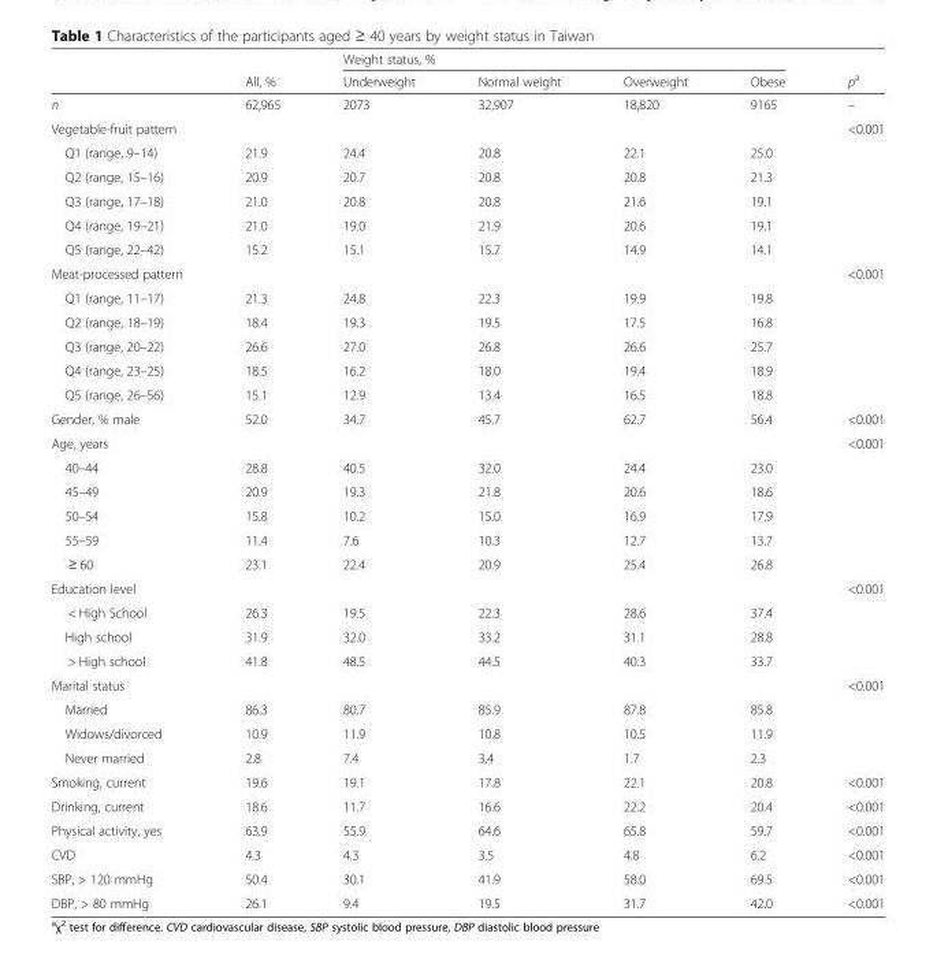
<table><thead><tr><td rowspan="2"></td><td rowspan="2">All, %</td><td colspan="4">Weight status, %</td><td rowspan="2">p<sup>a</sup></td></tr><tr><td>Underweight</td><td>Normal weight</td><td>Overweight</td><td>Obese</td></tr></thead><tbody><tr><td>n</td><td>62,965</td><td>2073</td><td>32,907</td><td>18,820</td><td>9165</td><td>–</td></tr><tr><td>Vegetable-fruit pattern</td><td></td><td></td><td></td><td></td><td></td><td>&lt;0.001</td></tr><tr><td>Q1 (range, 9–14)</td><td>21.9</td><td>24.4</td><td>20.8</td><td>22.1</td><td>25.0</td><td></td></tr><tr><td>Q2 (range, 15–16)</td><td>20.9</td><td>20.7</td><td>20.8</td><td>20.8</td><td>21.3</td><td></td></tr><tr><td>Q3 (range, 17–18)</td><td>21.0</td><td>20.8</td><td>20.8</td><td>21.6</td><td>19.1</td><td></td></tr><tr><td>Q4 (range, 19–21)</td><td>21.0</td><td>19.0</td><td>21.9</td><td>20.6</td><td>19.1</td><td></td></tr><tr><td>Q5 (range, 22–42)</td><td>15.2</td><td>15.1</td><td>15.7</td><td>14.9</td><td>14.1</td><td></td></tr><tr><td>Meat-processed pattern</td><td></td><td></td><td></td><td></td><td></td><td>&lt;0.001</td></tr><tr><td>Q1 (range, 11–17)</td><td>21.3</td><td>24.8</td><td>22.3</td><td>19.9</td><td>19.8</td><td></td></tr><tr><td>Q2 (range, 18–19)</td><td>18.4</td><td>19.3</td><td>19.5</td><td>17.5</td><td>16.8</td><td></td></tr><tr><td>Q3 (range, 20–22)</td><td>26.6</td><td>27.0</td><td>26.8</td><td>26.6</td><td>25.7</td><td></td></tr><tr><td>Q4 (range, 23–25)</td><td>18.5</td><td>16.2</td><td>18.0</td><td>19.4</td><td>18.9</td><td></td></tr><tr><td>Q5 (range, 26–56)</td><td>15.1</td><td>12.9</td><td>13.4</td><td>16.5</td><td>18.8</td><td></td></tr><tr><td>Gender, % male</td><td>52.0</td><td>34.7</td><td>45.7</td><td>62.7</td><td>56.4</td><td>&lt;0.001</td></tr><tr><td>Age, years</td><td></td><td></td><td></td><td></td><td></td><td>&lt;0.001</td></tr><tr><td>40–44</td><td>28.8</td><td>40.5</td><td>32.0</td><td>24.4</td><td>23.0</td><td></td></tr><tr><td>45–49</td><td>20.9</td><td>19.3</td><td>21.8</td><td>20.6</td><td>18.6</td><td></td></tr><tr><td>50–54</td><td>15.8</td><td>10.2</td><td>15.0</td><td>16.9</td><td>17.9</td><td></td></tr><tr><td>55–59</td><td>11.4</td><td>7.6</td><td>10.3</td><td>12.7</td><td>13.7</td><td></td></tr><tr><td>≥ 60</td><td>23.1</td><td>22.4</td><td>20.9</td><td>25.4</td><td>26.8</td><td></td></tr><tr><td>Education level</td><td></td><td></td><td></td><td></td><td></td><td>&lt;0.001</td></tr><tr><td>&lt; High School</td><td>26.3</td><td>19.5</td><td>22.3</td><td>28.6</td><td>37.4</td><td></td></tr><tr><td>High school</td><td>31.9</td><td>32.0</td><td>33.2</td><td>31.1</td><td>28.8</td><td></td></tr><tr><td>&gt; High school</td><td>41.8</td><td>48.5</td><td>44.5</td><td>40.3</td><td>33.7</td><td></td></tr><tr><td>Marital status</td><td></td><td></td><td></td><td></td><td></td><td>&lt;0.001</td></tr><tr><td>Married</td><td>86.3</td><td>80.7</td><td>85.9</td><td>87.8</td><td>85.8</td><td></td></tr><tr><td>Widows/divorced</td><td>10.9</td><td>11.9</td><td>10.8</td><td>10.5</td><td>11.9</td><td></td></tr><tr><td>Never married</td><td>2.8</td><td>7.4</td><td>3.4</td><td>1.7</td><td>2.3</td><td></td></tr><tr><td>Smoking, current</td><td>19.6</td><td>19.1</td><td>17.8</td><td>22.1</td><td>20.8</td><td>&lt;0.001</td></tr><tr><td>Drinking, current</td><td>18.6</td><td>11.7</td><td>16.6</td><td>22.2</td><td>20.4</td><td>&lt;0.001</td></tr><tr><td>Physical activity, yes</td><td>63.9</td><td>55.9</td><td>64.6</td><td>65.8</td><td>59.7</td><td>&lt;0.001</td></tr><tr><td>CVD</td><td>4.3</td><td>4.3</td><td>3.5</td><td>4.8</td><td>6.2</td><td>&lt;0.001</td></tr><tr><td>SBP, &gt; 120 mmHg</td><td>50.4</td><td>30.1</td><td>41.9</td><td>58.0</td><td>69.5</td><td>&lt;0.001</td></tr><tr><td>DBP, &gt; 80 mmHg</td><td>26.1</td><td>9.4</td><td>19.5</td><td>31.7</td><td>42.0</td><td>&lt;0.001</td></tr></tbody></table>